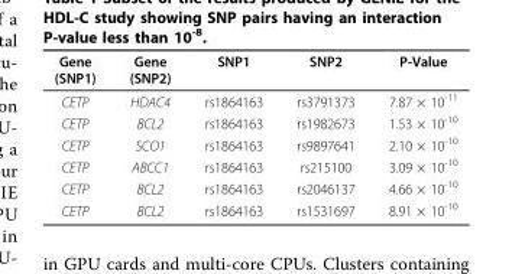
<table><thead><tr><td>Gene (SNP1)</td><td>Gene (SNP2)</td><td>SNP1</td><td>SNP2</td><td>P-Value</td></tr></thead><tbody><tr><td>CETP</td><td>HDAC4</td><td>rs1864163</td><td>rs3791373</td><td>7.87 × 10<sup>-11</sup></td></tr><tr><td>CETP</td><td>BCL2</td><td>rs1864163</td><td>rs1982673</td><td>1.53 × 10<sup>-10</sup></td></tr><tr><td>CETP</td><td>SCO1</td><td>rs1864163</td><td>rs9897641</td><td>2.10 × 10<sup>-10</sup></td></tr><tr><td>CETP</td><td>ABCC1</td><td>rs1864163</td><td>rs215100</td><td>3.09 × 10<sup>-10</sup></td></tr><tr><td>CETP</td><td>BCL2</td><td>rs1864163</td><td>rs2046137</td><td>4.66 × 10<sup>-10</sup></td></tr><tr><td>CETP</td><td>BCL2</td><td>rs1864163</td><td>rs1531697</td><td>8.91 × 10<sup>-10</sup></td></tr></tbody></table>